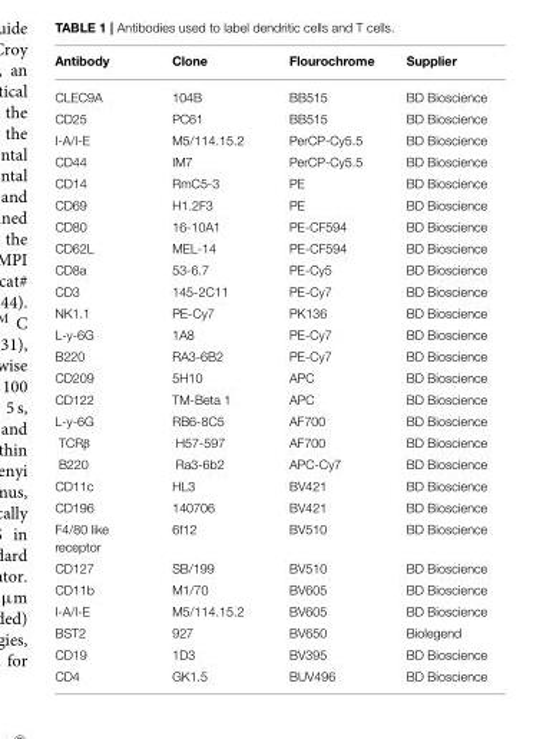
<table><thead><tr><td>Antibody</td><td>Clone</td><td>Flourochrome</td><td>Supplier</td></tr></thead><tbody><tr><td>CLEC9A</td><td>104B</td><td>BB515</td><td>BD Bioscience</td></tr><tr><td>CD25</td><td>PC61</td><td>BB515</td><td>BD Bioscience</td></tr><tr><td>I-A/I-E</td><td>M5/114.15.2</td><td>PerCP-Cy5.5</td><td>BD Bioscience</td></tr><tr><td>CD44</td><td>IM7</td><td>PerCP-Cy5.5</td><td>BD Bioscience</td></tr><tr><td>CD14</td><td>RmC5-3</td><td>PE</td><td>BD Bioscience</td></tr><tr><td>CD69</td><td>H1.2F3</td><td>PE</td><td>BD Bioscience</td></tr><tr><td>CD80</td><td>16-10A1</td><td>PE-CF594</td><td>BD Bioscience</td></tr><tr><td>CD62L</td><td>MEL-14</td><td>PE-CF594</td><td>BD Bioscience</td></tr><tr><td>CD8a</td><td>53-6.7</td><td>PE-Cy5</td><td>BD Bioscience</td></tr><tr><td>CD3</td><td>145-2C11</td><td>PE-Cy7</td><td>BD Bioscience</td></tr><tr><td>NK1.1</td><td>PE-Cy7</td><td>PK136</td><td>BD Bioscience</td></tr><tr><td>L-y-6G</td><td>1A8</td><td>PE-Cy7</td><td>BD Bioscience</td></tr><tr><td>B220</td><td>RA3-6B2</td><td>PE-Cy7</td><td>BD Bioscience</td></tr><tr><td>CD209</td><td>5H10</td><td>APC</td><td>BD Bioscience</td></tr><tr><td>CD122</td><td>TM-Beta 1</td><td>APC</td><td>BD Bioscience</td></tr><tr><td>L-y-6G</td><td>RB6-8C5</td><td>AF700</td><td>BD Bioscience</td></tr><tr><td>TCRβ</td><td>H57-597</td><td>AF700</td><td>BD Bioscience</td></tr><tr><td>B220</td><td>Ra3-6b2</td><td>APC-Cy7</td><td>BD Bioscience</td></tr><tr><td>CD11c</td><td>HL3</td><td>BV421</td><td>BD Bioscience</td></tr><tr><td>CD196</td><td>140706</td><td>BV421</td><td>BD Bioscience</td></tr><tr><td>F4/80 like receptor</td><td>6f12</td><td>BV510</td><td>BD Bioscience</td></tr><tr><td>CD127</td><td>SB/199</td><td>BV510</td><td>BD Bioscience</td></tr><tr><td>CD11b</td><td>M1/70</td><td>BV605</td><td>BD Bioscience</td></tr><tr><td>I-A/I-E</td><td>M5/114.15.2</td><td>BV605</td><td>BD Bioscience</td></tr><tr><td>BST2</td><td>927</td><td>BV650</td><td>Biolegend</td></tr><tr><td>CD19</td><td>1D3</td><td>BV395</td><td>BD Bioscience</td></tr><tr><td>CD4</td><td>GK1.5</td><td>BUV496</td><td>BD Bioscience</td></tr></tbody></table>